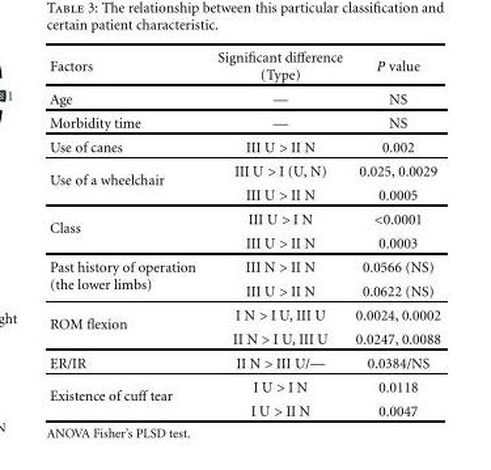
<table><thead><tr><td>Factors</td><td>Significant difference (Type)</td><td>P value</td></tr></thead><tbody><tr><td>Age</td><td>—</td><td>NS</td></tr><tr><td>Morbidity time</td><td>—</td><td>NS</td></tr><tr><td>Use of canes</td><td>III U &gt; II N</td><td>0.002</td></tr><tr><td rowspan="2">Use of a wheelchair</td><td>III U &gt; I (U, N)</td><td>0.025, 0.0029</td></tr><tr><td>III U &gt; II N</td><td>0.0005</td></tr><tr><td rowspan="2">Class</td><td>III U &gt; I N</td><td>&lt;0.0001</td></tr><tr><td>III U &gt; II N</td><td>0.0003</td></tr><tr><td rowspan="2">Past history of operation (the lower limbs)</td><td>III N &gt; II N</td><td>0.0566 (NS)</td></tr><tr><td>III U &gt; II N</td><td>0.0622 (NS)</td></tr><tr><td rowspan="2">ROM flexion</td><td>I N &gt; I U, III U</td><td>0.0024, 0.0002</td></tr><tr><td>II N &gt; I U, III U</td><td>0.0247, 0.0088</td></tr><tr><td>ER/IR</td><td>II N &gt; III U/—</td><td>0.0384/NS</td></tr><tr><td rowspan="2">Existence of cuff tear</td><td>I U &gt; I N</td><td>0.0118</td></tr><tr><td>I U &gt; II N</td><td>0.0047</td></tr></tbody></table>